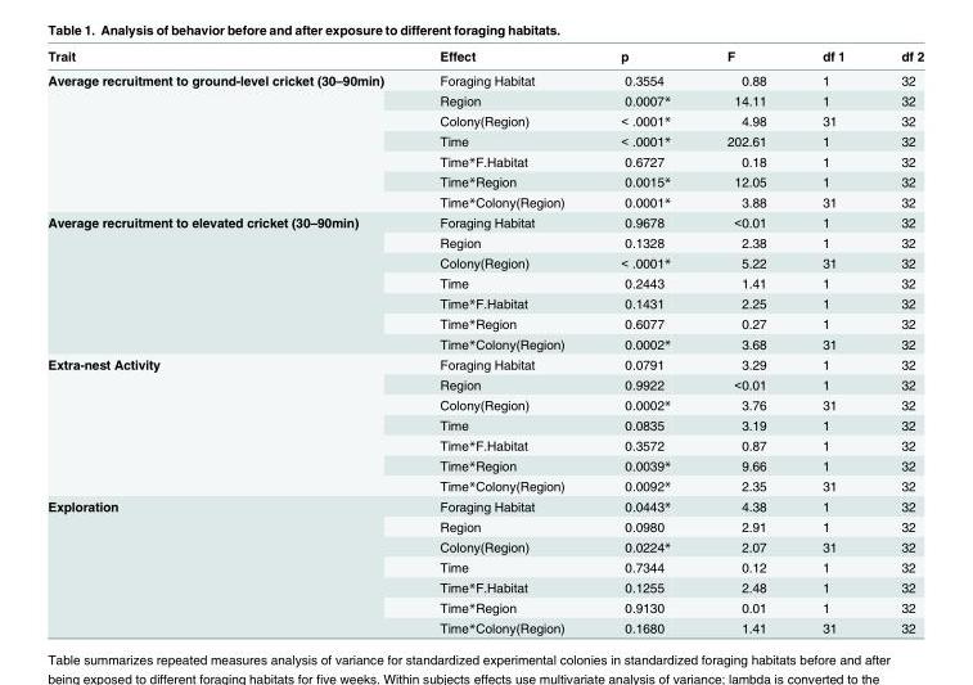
<table><thead><tr><td>Trait</td><td>Effect</td><td>p</td><td>F</td><td>df 1</td><td>df 2</td></tr></thead><tbody><tr><td rowspan="7">Average recruitment to ground-level cricket (30–90min)</td><td>Foraging Habitat</td><td>0.3554</td><td>0.88</td><td>1</td><td>32</td></tr><tr><td>Region</td><td>0.0007*</td><td>14.11</td><td>1</td><td>32</td></tr><tr><td>Colony(Region)</td><td>&lt; .0001*</td><td>4.98</td><td>31</td><td>32</td></tr><tr><td>Time</td><td>&lt; .0001*</td><td>202.61</td><td>1</td><td>32</td></tr><tr><td>Time*F.Habitat</td><td>0.6727</td><td>0.18</td><td>1</td><td>32</td></tr><tr><td>Time*Region</td><td>0.0015*</td><td>12.05</td><td>1</td><td>32</td></tr><tr><td>Time*Colony(Region)</td><td>0.0001*</td><td>3.88</td><td>31</td><td>32</td></tr><tr><td rowspan="7">Average recruitment to elevated cricket (30–90min)</td><td>Foraging Habitat</td><td>0.9678</td><td>&lt;0.01</td><td>1</td><td>32</td></tr><tr><td>Region</td><td>0.1328</td><td>2.38</td><td>1</td><td>32</td></tr><tr><td>Colony(Region)</td><td>&lt; .0001*</td><td>5.22</td><td>31</td><td>32</td></tr><tr><td>Time</td><td>0.2443</td><td>1.41</td><td>1</td><td>32</td></tr><tr><td>Time*F.Habitat</td><td>0.1431</td><td>2.25</td><td>1</td><td>32</td></tr><tr><td>Time*Region</td><td>0.6077</td><td>0.27</td><td>1</td><td>32</td></tr><tr><td>Time*Colony(Region)</td><td>0.0002*</td><td>3.68</td><td>31</td><td>32</td></tr><tr><td rowspan="7">Extra-nest Activity</td><td>Foraging Habitat</td><td>0.0791</td><td>3.29</td><td>1</td><td>32</td></tr><tr><td>Region</td><td>0.9922</td><td>&lt;0.01</td><td>1</td><td>32</td></tr><tr><td>Colony(Region)</td><td>0.0002*</td><td>3.76</td><td>31</td><td>32</td></tr><tr><td>Time</td><td>0.0835</td><td>3.19</td><td>1</td><td>32</td></tr><tr><td>Time*F.Habitat</td><td>0.3572</td><td>0.87</td><td>1</td><td>32</td></tr><tr><td>Time*Region</td><td>0.0039*</td><td>9.66</td><td>1</td><td>32</td></tr><tr><td>Time*Colony(Region)</td><td>0.0092*</td><td>2.35</td><td>31</td><td>32</td></tr><tr><td rowspan="7">Exploration</td><td>Foraging Habitat</td><td>0.0443*</td><td>4.38</td><td>1</td><td>32</td></tr><tr><td>Region</td><td>0.0980</td><td>2.91</td><td>1</td><td>32</td></tr><tr><td>Colony(Region)</td><td>0.0224*</td><td>2.07</td><td>31</td><td>32</td></tr><tr><td>Time</td><td>0.7344</td><td>0.12</td><td>1</td><td>32</td></tr><tr><td>Time*F.Habitat</td><td>0.1255</td><td>2.48</td><td>1</td><td>32</td></tr><tr><td>Time*Region</td><td>0.9130</td><td>0.01</td><td>1</td><td>32</td></tr><tr><td>Time*Colony(Region)</td><td>0.1680</td><td>1.41</td><td>31</td><td>32</td></tr></tbody></table>